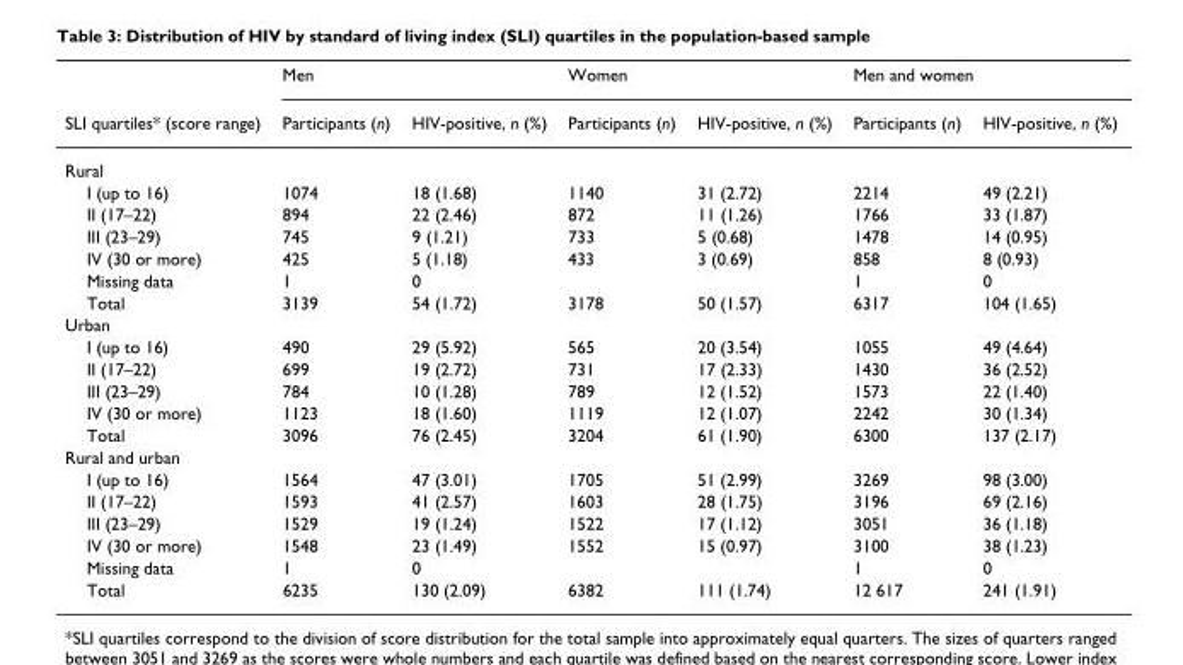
<table><thead><tr><td rowspan="2">SLI quartiles* (score range)</td><td colspan="2">Men</td><td colspan="2">Women</td><td colspan="2">Men and women</td></tr><tr><td>Participants (n)</td><td>HIV-positive, n (%)</td><td>Participants (n)</td><td>HIV-positive, n (%)</td><td>Participants (n)</td><td>HIV-positive, n (%)</td></tr></thead><tbody><tr><td colspan="7">Rural</td></tr><tr><td>I (up to 16)</td><td>1074</td><td>18 (1.68)</td><td>1140</td><td>31 (2.72)</td><td>2214</td><td>49 (2.21)</td></tr><tr><td>II (17–22)</td><td>894</td><td>22 (2.46)</td><td>872</td><td>11 (1.26)</td><td>1766</td><td>33 (1.87)</td></tr><tr><td>III (23–29)</td><td>745</td><td>9 (1.21)</td><td>733</td><td>5 (0.68)</td><td>1478</td><td>14 (0.95)</td></tr><tr><td>IV (30 or more)</td><td>425</td><td>5 (1.18)</td><td>433</td><td>3 (0.69)</td><td>858</td><td>8 (0.93)</td></tr><tr><td>Missing data</td><td>1</td><td>0</td><td></td><td></td><td>1</td><td>0</td></tr><tr><td>Total</td><td>3139</td><td>54 (1.72)</td><td>3178</td><td>50 (1.57)</td><td>6317</td><td>104 (1.65)</td></tr><tr><td colspan="7">Urban</td></tr><tr><td>I (up to 16)</td><td>490</td><td>29 (5.92)</td><td>565</td><td>20 (3.54)</td><td>1055</td><td>49 (4.64)</td></tr><tr><td>II (17–22)</td><td>699</td><td>19 (2.72)</td><td>731</td><td>17 (2.33)</td><td>1430</td><td>36 (2.52)</td></tr><tr><td>III (23–29)</td><td>784</td><td>10 (1.28)</td><td>789</td><td>12 (1.52)</td><td>1573</td><td>22 (1.40)</td></tr><tr><td>IV (30 or more)</td><td>1123</td><td>18 (1.60)</td><td>1119</td><td>12 (1.07)</td><td>2242</td><td>30 (1.34)</td></tr><tr><td>Total</td><td>3096</td><td>76 (2.45)</td><td>3204</td><td>61 (1.90)</td><td>6300</td><td>137 (2.17)</td></tr><tr><td colspan="7">Rural and urban</td></tr><tr><td>I (up to 16)</td><td>1564</td><td>47 (3.01)</td><td>1705</td><td>51 (2.99)</td><td>3269</td><td>98 (3.00)</td></tr><tr><td>II (17–22)</td><td>1593</td><td>41 (2.57)</td><td>1603</td><td>28 (1.75)</td><td>3196</td><td>69 (2.16)</td></tr><tr><td>III (23–29)</td><td>1529</td><td>19 (1.24)</td><td>1522</td><td>17 (1.12)</td><td>3051</td><td>36 (1.18)</td></tr><tr><td>IV (30 or more)</td><td>1548</td><td>23 (1.49)</td><td>1552</td><td>15 (0.97)</td><td>3100</td><td>38 (1.23)</td></tr><tr><td>Missing data</td><td>1</td><td>0</td><td></td><td></td><td>1</td><td>0</td></tr><tr><td>Total</td><td>6235</td><td>130 (2.09)</td><td>6382</td><td>111 (1.74)</td><td>12 617</td><td>241 (1.91)</td></tr></tbody></table>